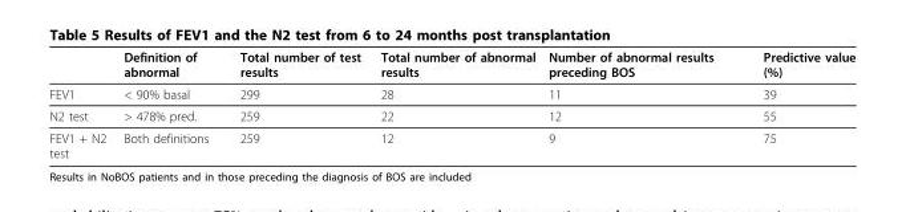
<table><thead><tr><td></td><td>Definition of abnormal</td><td>Total number of test results</td><td>Total number of abnormal results</td><td>Number of abnormal results preceding BOS</td><td>Predictive value (%)</td></tr></thead><tbody><tr><td>FEV1</td><td>&lt; 90% basal</td><td>299</td><td>28</td><td>11</td><td>39</td></tr><tr><td>N2 test</td><td>&gt; 478% pred.</td><td>259</td><td>22</td><td>12</td><td>55</td></tr><tr><td>FEV1 + N2 test</td><td>Both definitions</td><td>259</td><td>12</td><td>9</td><td>75</td></tr></tbody></table>